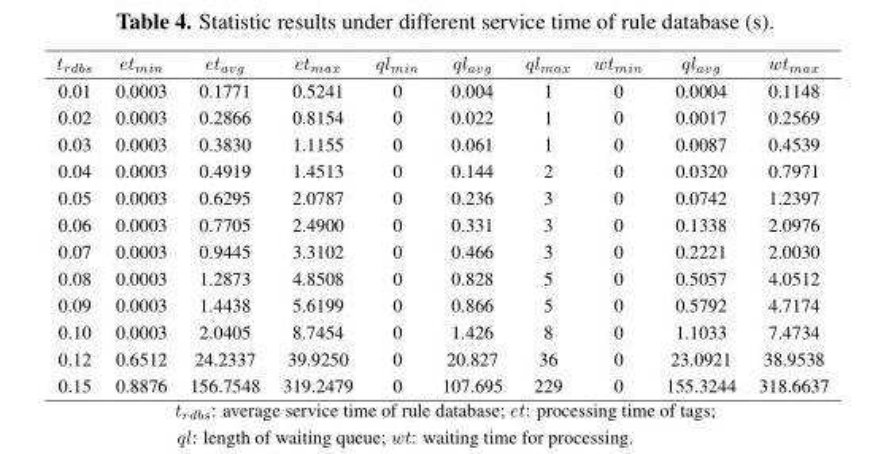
<table><thead><tr><td>t<sub>rdbs</sub></td><td>et<sub>min</sub></td><td>et<sub>avg</sub></td><td>et<sub>max</sub></td><td>ql<sub>min</sub></td><td>ql<sub>avg</sub></td><td>ql<sub>max</sub></td><td>wt<sub>min</sub></td><td>ql<sub>avg</sub></td><td>wt<sub>max</sub></td></tr></thead><tbody><tr><td>0.01</td><td>0.0003</td><td>0.1771</td><td>0.5241</td><td>0</td><td>0.004</td><td>1</td><td>0</td><td>0.0004</td><td>0.1148</td></tr><tr><td>0.02</td><td>0.0003</td><td>0.2866</td><td>0.8154</td><td>0</td><td>0.022</td><td>1</td><td>0</td><td>0.0017</td><td>0.2569</td></tr><tr><td>0.03</td><td>0.0003</td><td>0.3830</td><td>1.1155</td><td>0</td><td>0.061</td><td>1</td><td>0</td><td>0.0087</td><td>0.4539</td></tr><tr><td>0.04</td><td>0.0003</td><td>0.4919</td><td>1.4513</td><td>0</td><td>0.144</td><td>2</td><td>0</td><td>0.0320</td><td>0.7971</td></tr><tr><td>0.05</td><td>0.0003</td><td>0.6295</td><td>2.0787</td><td>0</td><td>0.236</td><td>3</td><td>0</td><td>0.0742</td><td>1.2397</td></tr><tr><td>0.06</td><td>0.0003</td><td>0.7705</td><td>2.4900</td><td>0</td><td>0.331</td><td>3</td><td>0</td><td>0.1338</td><td>2.0976</td></tr><tr><td>0.07</td><td>0.0003</td><td>0.9445</td><td>3.3102</td><td>0</td><td>0.466</td><td>3</td><td>0</td><td>0.2221</td><td>2.0030</td></tr><tr><td>0.08</td><td>0.0003</td><td>1.2873</td><td>4.8508</td><td>0</td><td>0.828</td><td>5</td><td>0</td><td>0.5057</td><td>4.0512</td></tr><tr><td>0.09</td><td>0.0003</td><td>1.4438</td><td>5.6199</td><td>0</td><td>0.866</td><td>5</td><td>0</td><td>0.5792</td><td>4.7174</td></tr><tr><td>0.10</td><td>0.0003</td><td>2.0405</td><td>8.7454</td><td>0</td><td>1.426</td><td>8</td><td>0</td><td>1.1033</td><td>7.4734</td></tr><tr><td>0.12</td><td>0.6512</td><td>24.2337</td><td>39.9250</td><td>0</td><td>20.827</td><td>36</td><td>0</td><td>23.0921</td><td>38.9538</td></tr><tr><td>0.15</td><td>0.8876</td><td>156.7548</td><td>319.2479</td><td>0</td><td>107.695</td><td>229</td><td>0</td><td>155.3244</td><td>318.6637</td></tr></tbody></table>